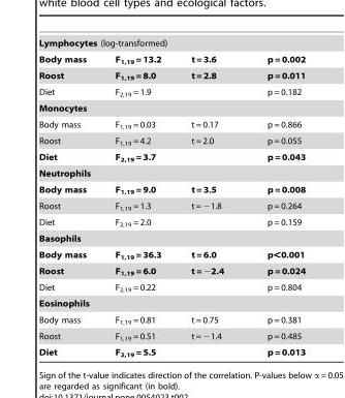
<table><tbody><tr><td colspan="4">Lymphocytes (log-transformed)</td></tr><tr><td>Body mass</td><td>F<sub>1,19</sub> = 13.2</td><td>t = 3.6</td><td>p = 0.002</td></tr><tr><td>Roost</td><td>F<sub>1,19</sub> = 8.0</td><td>t = 2.8</td><td>p = 0.011</td></tr><tr><td>Diet</td><td>F<sub>2,19</sub> = 1.9</td><td></td><td>p = 0.182</td></tr><tr><td colspan="4">Monocytes</td></tr><tr><td>Body mass</td><td>F<sub>1,19</sub> = 0.03</td><td>t = 0.17</td><td>p = 0.866</td></tr><tr><td>Roost</td><td>F<sub>1,19</sub> = 4.2</td><td>t = 2.0</td><td>p = 0.055</td></tr><tr><td>Diet</td><td>F<sub>2,19</sub> = 3.7</td><td></td><td>p = 0.043</td></tr><tr><td colspan="4">Neutrophils</td></tr><tr><td>Body mass</td><td>F<sub>1,19</sub> = 9.0</td><td>t = 3.5</td><td>p = 0.008</td></tr><tr><td>Roost</td><td>F<sub>1,19</sub> = 1.3</td><td>t = −1.8</td><td>p = 0.264</td></tr><tr><td>Diet</td><td>F<sub>2,19</sub> = 2.0</td><td></td><td>p = 0.159</td></tr><tr><td colspan="4">Basophils</td></tr><tr><td>Body mass</td><td>F<sub>1,19</sub> = 36.3</td><td>t = 6.0</td><td>p&lt;0.001</td></tr><tr><td>Roost</td><td>F<sub>1,19</sub> = 6.0</td><td>t = −2.4</td><td>p = 0.024</td></tr><tr><td>Diet</td><td>F<sub>2,19</sub> = 0.22</td><td></td><td>p = 0.804</td></tr><tr><td colspan="4">Eosinophils</td></tr><tr><td>Body mass</td><td>F<sub>1,19</sub> = 0.81</td><td>t = 0.75</td><td>p = 0.381</td></tr><tr><td>Roost</td><td>F<sub>1,19</sub> = 0.51</td><td>t = −1.4</td><td>p = 0.485</td></tr><tr><td>Diet</td><td>F<sub>2,19</sub> = 5.5</td><td></td><td>p = 0.013</td></tr></tbody></table>